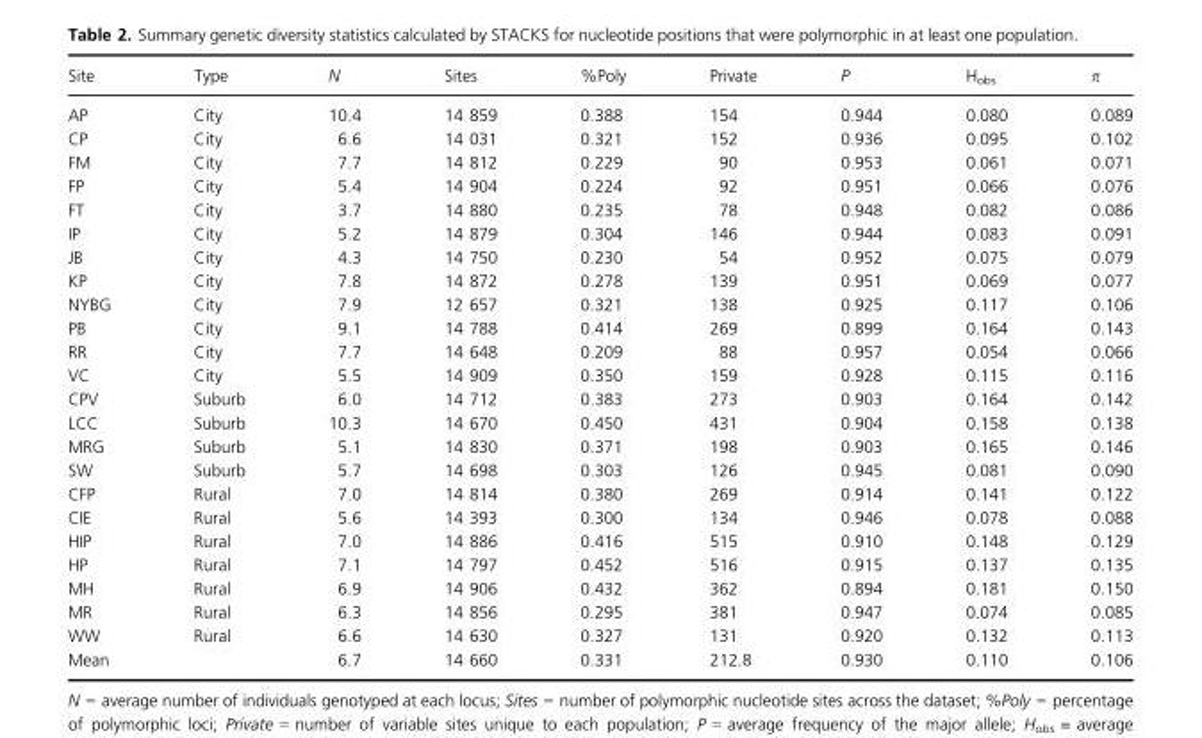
<table><thead><tr><td>Site</td><td>Type</td><td>N</td><td>Sites</td><td>%Poly</td><td>Private</td><td>P</td><td>H<sub>obs</sub></td><td>π</td></tr></thead><tbody><tr><td>AP</td><td>City</td><td>10.4</td><td>14 859</td><td>0.388</td><td>154</td><td>0.944</td><td>0.080</td><td>0.089</td></tr><tr><td>CP</td><td>City</td><td>6.6</td><td>14 031</td><td>0.321</td><td>152</td><td>0.936</td><td>0.095</td><td>0.102</td></tr><tr><td>FM</td><td>City</td><td>7.7</td><td>14 812</td><td>0.229</td><td>90</td><td>0.953</td><td>0.061</td><td>0.071</td></tr><tr><td>FP</td><td>City</td><td>5.4</td><td>14 904</td><td>0.224</td><td>92</td><td>0.951</td><td>0.066</td><td>0.076</td></tr><tr><td>FT</td><td>City</td><td>3.7</td><td>14 880</td><td>0.235</td><td>78</td><td>0.948</td><td>0.082</td><td>0.086</td></tr><tr><td>IP</td><td>City</td><td>5.2</td><td>14 879</td><td>0.304</td><td>146</td><td>0.944</td><td>0.083</td><td>0.091</td></tr><tr><td>JB</td><td>City</td><td>4.3</td><td>14 750</td><td>0.230</td><td>54</td><td>0.952</td><td>0.075</td><td>0.079</td></tr><tr><td>KP</td><td>City</td><td>7.8</td><td>14 872</td><td>0.278</td><td>139</td><td>0.951</td><td>0.069</td><td>0.077</td></tr><tr><td>NYBG</td><td>City</td><td>7.9</td><td>12 657</td><td>0.321</td><td>138</td><td>0.925</td><td>0.117</td><td>0.106</td></tr><tr><td>PB</td><td>City</td><td>9.1</td><td>14 788</td><td>0.414</td><td>269</td><td>0.899</td><td>0.164</td><td>0.143</td></tr><tr><td>RR</td><td>City</td><td>7.7</td><td>14 648</td><td>0.209</td><td>88</td><td>0.957</td><td>0.054</td><td>0.066</td></tr><tr><td>VC</td><td>City</td><td>5.5</td><td>14 909</td><td>0.350</td><td>159</td><td>0.928</td><td>0.115</td><td>0.116</td></tr><tr><td>CPV</td><td>Suburb</td><td>6.0</td><td>14 712</td><td>0.383</td><td>273</td><td>0.903</td><td>0.164</td><td>0.142</td></tr><tr><td>LCC</td><td>Suburb</td><td>10.3</td><td>14 670</td><td>0.450</td><td>431</td><td>0.904</td><td>0.158</td><td>0.138</td></tr><tr><td>MRG</td><td>Suburb</td><td>5.1</td><td>14 830</td><td>0.371</td><td>198</td><td>0.903</td><td>0.165</td><td>0.146</td></tr><tr><td>SW</td><td>Suburb</td><td>5.7</td><td>14 698</td><td>0.303</td><td>126</td><td>0.945</td><td>0.081</td><td>0.090</td></tr><tr><td>CFP</td><td>Rural</td><td>7.0</td><td>14 814</td><td>0.380</td><td>269</td><td>0.914</td><td>0.141</td><td>0.122</td></tr><tr><td>CIE</td><td>Rural</td><td>5.6</td><td>14 393</td><td>0.300</td><td>134</td><td>0.946</td><td>0.078</td><td>0.088</td></tr><tr><td>HIP</td><td>Rural</td><td>7.0</td><td>14 886</td><td>0.416</td><td>515</td><td>0.910</td><td>0.148</td><td>0.129</td></tr><tr><td>HP</td><td>Rural</td><td>7.1</td><td>14 797</td><td>0.452</td><td>516</td><td>0.915</td><td>0.137</td><td>0.135</td></tr><tr><td>MH</td><td>Rural</td><td>6.9</td><td>14 906</td><td>0.432</td><td>362</td><td>0.894</td><td>0.181</td><td>0.150</td></tr><tr><td>MR</td><td>Rural</td><td>6.3</td><td>14 856</td><td>0.295</td><td>381</td><td>0.947</td><td>0.074</td><td>0.085</td></tr><tr><td>WW</td><td>Rural</td><td>6.6</td><td>14 630</td><td>0.327</td><td>131</td><td>0.920</td><td>0.132</td><td>0.113</td></tr><tr><td>Mean</td><td></td><td>6.7</td><td>14 660</td><td>0.331</td><td>212.8</td><td>0.930</td><td>0.110</td><td>0.106</td></tr></tbody></table>